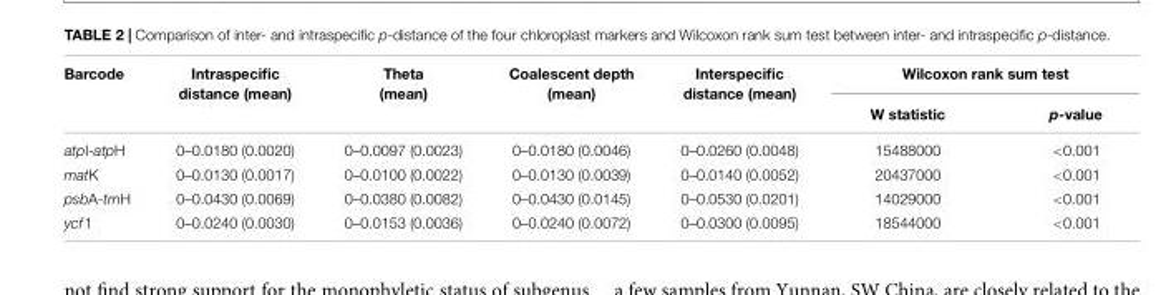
<table><thead><tr><td rowspan="2">Barcode</td><td rowspan="2">Intraspecific distance (mean)</td><td rowspan="2">Theta (mean)</td><td rowspan="2">Coalescent depth (mean)</td><td rowspan="2">Interspecific distance (mean)</td><td colspan="2">Wilcoxon rank sum test</td></tr><tr><td>W statistic</td><td>p-value</td></tr></thead><tbody><tr><td>atpI-atpH</td><td>0–0.0180 (0.0020)</td><td>0–0.0097 (0.0023)</td><td>0–0.0180 (0.0046)</td><td>0–0.0260 (0.0048)</td><td>15488000</td><td>&lt;0.001</td></tr><tr><td>matK</td><td>0–0.0130 (0.0017)</td><td>0–0.0100 (0.0022)</td><td>0–0.0130 (0.0039)</td><td>0–0.0140 (0.0052)</td><td>20437000</td><td>&lt;0.001</td></tr><tr><td>psbA-trnH</td><td>0–0.0430 (0.0069)</td><td>0–0.0380 (0.0082)</td><td>0–0.0430 (0.0145)</td><td>0–0.0530 (0.0201)</td><td>14029000</td><td>&lt;0.001</td></tr><tr><td>ycf1</td><td>0–0.0240 (0.0030)</td><td>0–0.0153 (0.0036)</td><td>0–0.0240 (0.0072)</td><td>0–0.0300 (0.0095)</td><td>18544000</td><td>&lt;0.001</td></tr></tbody></table>